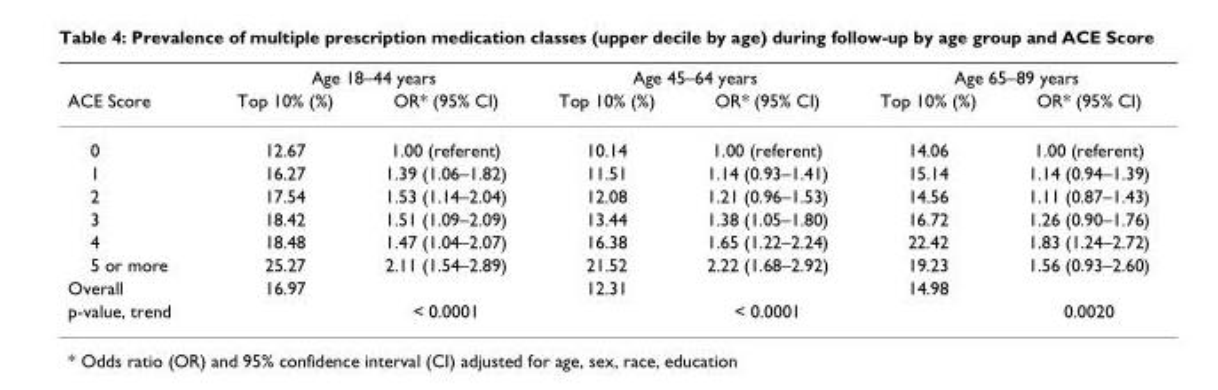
<table><thead><tr><td rowspan="2">ACE Score</td><td colspan="2">Age 18–44 years</td><td colspan="2">Age 45–64 years</td><td colspan="2">Age 65–89 years</td></tr><tr><td>Top 10% (%)</td><td>OR* (95% CI)</td><td>Top 10% (%)</td><td>OR* (95% CI)</td><td>Top 10% (%)</td><td>OR* (95% CI)</td></tr></thead><tbody><tr><td>0</td><td>12.67</td><td>1.00 (referent)</td><td>10.14</td><td>1.00 (referent)</td><td>14.06</td><td>1.00 (referent)</td></tr><tr><td>1</td><td>16.27</td><td>1.39 (1.06–1.82)</td><td>11.51</td><td>1.14 (0.93–1.41)</td><td>15.14</td><td>1.14 (0.94–1.39)</td></tr><tr><td>2</td><td>17.54</td><td>1.53 (1.14–2.04)</td><td>12.08</td><td>1.21 (0.96–1.53)</td><td>14.56</td><td>1.11 (0.87–1.43)</td></tr><tr><td>3</td><td>18.42</td><td>1.51 (1.09–2.09)</td><td>13.44</td><td>1.38 (1.05–1.80)</td><td>16.72</td><td>1.26 (0.90–1.76)</td></tr><tr><td>4</td><td>18.48</td><td>1.47 (1.04–2.07)</td><td>16.38</td><td>1.65 (1.22–2.24)</td><td>22.42</td><td>1.83 (1.24–2.72)</td></tr><tr><td>5 or more</td><td>25.27</td><td>2.11 (1.54–2.89)</td><td>21.52</td><td>2.22 (1.68–2.92)</td><td>19.23</td><td>1.56 (0.93–2.60)</td></tr><tr><td>Overall</td><td>16.97</td><td></td><td>12.31</td><td></td><td>14.98</td><td></td></tr><tr><td>p-value, trend</td><td></td><td>&lt; 0.0001</td><td></td><td>&lt; 0.0001</td><td></td><td>0.0020</td></tr></tbody></table>